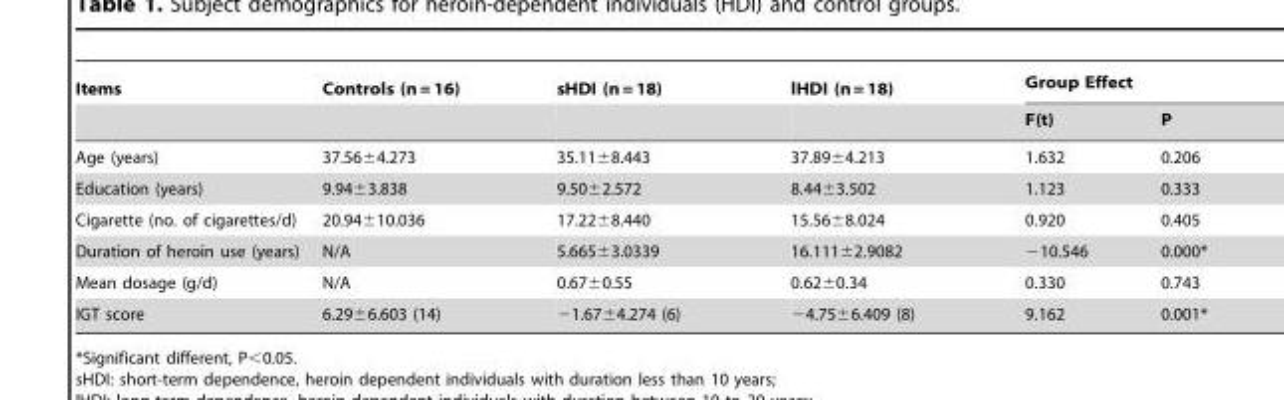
<table><thead><tr><td rowspan="2">Items</td><td rowspan="2">Controls (n = 16)</td><td rowspan="2">sHDI (n = 18)</td><td rowspan="2">lHDI (n = 18)</td><td colspan="2">Group Effect</td></tr><tr><td>F(t)</td><td>P</td></tr></thead><tbody><tr><td>Age (years)</td><td>37.56±4.273</td><td>35.11±8.443</td><td>37.89±4.213</td><td>1.632</td><td>0.206</td></tr><tr><td>Education (years)</td><td>9.94±3.838</td><td>9.50±2.572</td><td>8.44±3.502</td><td>1.123</td><td>0.333</td></tr><tr><td>Cigarette (no. of cigarettes/d)</td><td>20.94±10.036</td><td>17.22±8.440</td><td>15.56±8.024</td><td>0.920</td><td>0.405</td></tr><tr><td>Duration of heroin use (years)</td><td>N/A</td><td>5.665±3.0339</td><td>16.111±2.9082</td><td>−10.546</td><td>0.000*</td></tr><tr><td>Mean dosage (g/d)</td><td>N/A</td><td>0.67±0.55</td><td>0.62±0.34</td><td>0.330</td><td>0.743</td></tr><tr><td>IGT score</td><td>6.29±6.603 (14)</td><td>−1.67±4.274 (6)</td><td>−4.75±6.409 (8)</td><td>9.162</td><td>0.001*</td></tr></tbody></table>